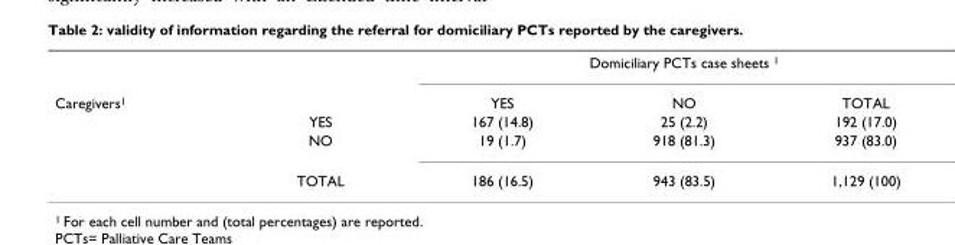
<table><thead><tr><td rowspan="2">Caregivers<sup>1</sup></td><td rowspan="2"></td><td colspan="3">Domiciliary PCTs case sheets <sup>1</sup></td></tr><tr><td>YES</td><td>NO</td><td>TOTAL</td></tr></thead><tbody><tr><td></td><td>YES</td><td>167 (14.8)</td><td>25 (2.2)</td><td>192 (17.0)</td></tr><tr><td></td><td>NO</td><td>19 (1.7)</td><td>918 (81.3)</td><td>937 (83.0)</td></tr><tr><td></td><td>TOTAL</td><td>186 (16.5)</td><td>943 (83.5)</td><td>1,129 (100)</td></tr></tbody></table>